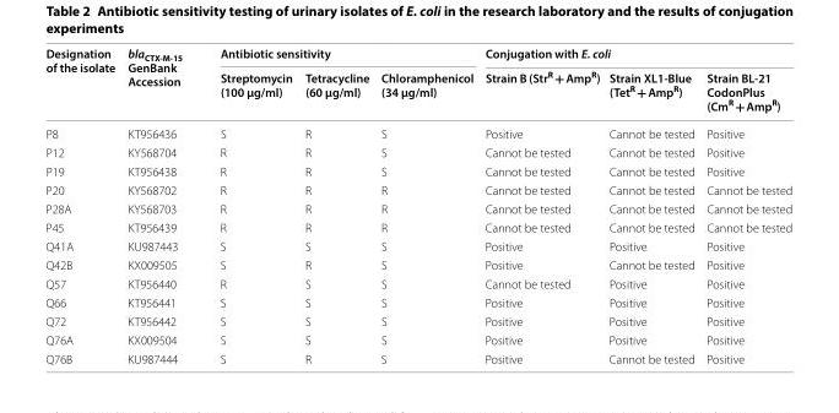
<table><thead><tr><td rowspan="2">Designation of the isolate</td><td rowspan="2">bla<sub>CTX‑M‑15</sub> GenBank Accession</td><td colspan="3">Antibiotic sensitivity</td><td colspan="3">Conjugation with E. coli</td></tr><tr><td>Streptomycin (100 µg/ml)</td><td>Tetracycline (60 µg/ml)</td><td>Chloramphenicol (34 µg/ml)</td><td>Strain B (Str<sup>R</sup> + Amp<sup>R</sup>)</td><td>Strain XL1-Blue (Tet<sup>R</sup> + Amp<sup>R</sup>)</td><td>Strain BL-21 CodonPlus (Cm<sup>R</sup> + Amp<sup>R</sup>)</td></tr></thead><tbody><tr><td>P8</td><td>KT956436</td><td>S</td><td>R</td><td>S</td><td>Positive</td><td>Cannot be tested</td><td>Positive</td></tr><tr><td>P12</td><td>KY568704</td><td>R</td><td>R</td><td>S</td><td>Cannot be tested</td><td>Cannot be tested</td><td>Positive</td></tr><tr><td>P19</td><td>KT956438</td><td>R</td><td>R</td><td>S</td><td>Cannot be tested</td><td>Cannot be tested</td><td>Positive</td></tr><tr><td>P20</td><td>KY568702</td><td>R</td><td>R</td><td>R</td><td>Cannot be tested</td><td>Cannot be tested</td><td>Cannot be tested</td></tr><tr><td>P28A</td><td>KY568703</td><td>R</td><td>R</td><td>R</td><td>Cannot be tested</td><td>Cannot be tested</td><td>Cannot be tested</td></tr><tr><td>P45</td><td>KT956439</td><td>R</td><td>R</td><td>R</td><td>Cannot be tested</td><td>Cannot be tested</td><td>Cannot be tested</td></tr><tr><td>Q41A</td><td>KU987443</td><td>S</td><td>S</td><td>S</td><td>Positive</td><td>Positive</td><td>Positive</td></tr><tr><td>Q42B</td><td>KX009505</td><td>S</td><td>R</td><td>S</td><td>Positive</td><td>Cannot be tested</td><td>Positive</td></tr><tr><td>Q57</td><td>KT956440</td><td>R</td><td>S</td><td>S</td><td>Cannot be tested</td><td>Positive</td><td>Positive</td></tr><tr><td>Q66</td><td>KT956441</td><td>S</td><td>S</td><td>S</td><td>Positive</td><td>Positive</td><td>Positive</td></tr><tr><td>Q72</td><td>KT956442</td><td>S</td><td>S</td><td>S</td><td>Positive</td><td>Positive</td><td>Positive</td></tr><tr><td>Q76A</td><td>KX009504</td><td>S</td><td>S</td><td>S</td><td>Positive</td><td>Positive</td><td>Positive</td></tr><tr><td>Q76B</td><td>KU987444</td><td>S</td><td>R</td><td>S</td><td>Positive</td><td>Cannot be tested</td><td>Positive</td></tr></tbody></table>